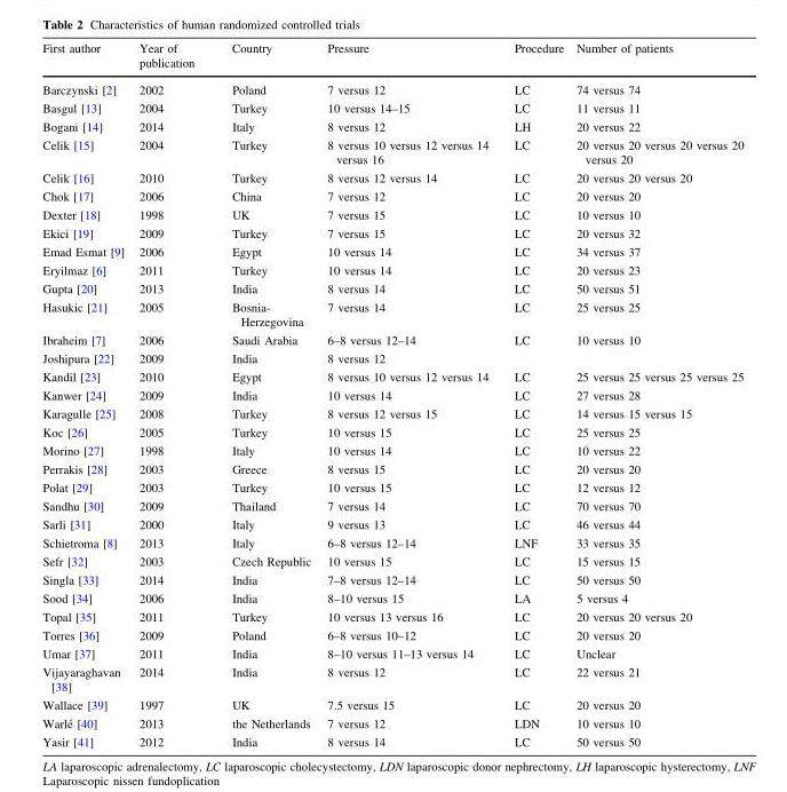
<table><thead><tr><td>First author</td><td>Year of publication</td><td>Country</td><td>Pressure</td><td>Procedure</td><td>Number of patients</td></tr></thead><tbody><tr><td>Barczynski [2]</td><td>2002</td><td>Poland</td><td>7 versus 12</td><td>LC</td><td>74 versus 74</td></tr><tr><td>Basgul [13]</td><td>2004</td><td>Turkey</td><td>10 versus 14–15</td><td>LC</td><td>11 versus 11</td></tr><tr><td>Bogani [14]</td><td>2014</td><td>Italy</td><td>8 versus 12</td><td>LH</td><td>20 versus 22</td></tr><tr><td>Celik [15]</td><td>2004</td><td>Turkey</td><td>8 versus 10 versus 12 versus 14 versus 16</td><td>LC</td><td>20 versus 20 versus 20 versus 20 versus 20</td></tr><tr><td>Celik [16]</td><td>2010</td><td>Turkey</td><td>8 versus 12 versus 14</td><td>LC</td><td>20 versus 20 versus 20</td></tr><tr><td>Chok [17]</td><td>2006</td><td>China</td><td>7 versus 12</td><td>LC</td><td>20 versus 20</td></tr><tr><td>Dexter [18]</td><td>1998</td><td>UK</td><td>7 versus 15</td><td>LC</td><td>10 versus 10</td></tr><tr><td>Ekici [19]</td><td>2009</td><td>Turkey</td><td>7 versus 15</td><td>LC</td><td>20 versus 32</td></tr><tr><td>Emad Esmat [9]</td><td>2006</td><td>Egypt</td><td>10 versus 14</td><td>LC</td><td>34 versus 37</td></tr><tr><td>Eryilmaz [6]</td><td>2011</td><td>Turkey</td><td>10 versus 14</td><td>LC</td><td>20 versus 23</td></tr><tr><td>Gupta [20]</td><td>2013</td><td>India</td><td>8 versus 14</td><td>LC</td><td>50 versus 51</td></tr><tr><td>Hasukic [21]</td><td>2005</td><td>Bosnia- Herzegovina</td><td>7 versus 14</td><td>LC</td><td>25 versus 25</td></tr><tr><td>Ibraheim [7]</td><td>2006</td><td>Saudi Arabia</td><td>6–8 versus 12–14</td><td>LC</td><td>10 versus 10</td></tr><tr><td>Joshipura [22]</td><td>2009</td><td>India</td><td>8 versus 12</td><td></td><td></td></tr><tr><td>Kandil [23]</td><td>2010</td><td>Egypt</td><td>8 versus 10 versus 12 versus 14</td><td>LC</td><td>25 versus 25 versus 25 versus 25</td></tr><tr><td>Kanwer [24]</td><td>2009</td><td>India</td><td>10 versus 14</td><td>LC</td><td>27 versus 28</td></tr><tr><td>Karagulle [25]</td><td>2008</td><td>Turkey</td><td>8 versus 12 versus 15</td><td>LC</td><td>14 versus 15 versus 15</td></tr><tr><td>Koc [26]</td><td>2005</td><td>Turkey</td><td>10 versus 15</td><td>LC</td><td>25 versus 25</td></tr><tr><td>Morino [27]</td><td>1998</td><td>Italy</td><td>10 versus 14</td><td>LC</td><td>10 versus 22</td></tr><tr><td>Perrakis [28]</td><td>2003</td><td>Greece</td><td>8 versus 15</td><td>LC</td><td>20 versus 20</td></tr><tr><td>Polat [29]</td><td>2003</td><td>Turkey</td><td>10 versus 15</td><td>LC</td><td>12 versus 12</td></tr><tr><td>Sandhu [30]</td><td>2009</td><td>Thailand</td><td>7 versus 14</td><td>LC</td><td>70 versus 70</td></tr><tr><td>Sarli [31]</td><td>2000</td><td>Italy</td><td>9 versus 13</td><td>LC</td><td>46 versus 44</td></tr><tr><td>Schietroma [8]</td><td>2013</td><td>Italy</td><td>6–8 versus 12–14</td><td>LNF</td><td>33 versus 35</td></tr><tr><td>Sefr [32]</td><td>2003</td><td>Czech Republic</td><td>10 versus 15</td><td>LC</td><td>15 versus 15</td></tr><tr><td>Singla [33]</td><td>2014</td><td>India</td><td>7–8 versus 12–14</td><td>LC</td><td>50 versus 50</td></tr><tr><td>Sood [34]</td><td>2006</td><td>India</td><td>8–10 versus 15</td><td>LA</td><td>5 versus 4</td></tr><tr><td>Topal [35]</td><td>2011</td><td>Turkey</td><td>10 versus 13 versus 16</td><td>LC</td><td>20 versus 20 versus 20</td></tr><tr><td>Torres [36]</td><td>2009</td><td>Poland</td><td>6–8 versus 10–12</td><td>LC</td><td>20 versus 20</td></tr><tr><td>Umar [37]</td><td>2011</td><td>India</td><td>8–10 versus 11–13 versus 14</td><td>LC</td><td>Unclear</td></tr><tr><td>Vijayaraghavan [38]</td><td>2014</td><td>India</td><td>8 versus 12</td><td>LC</td><td>22 versus 21</td></tr><tr><td>Wallace [39]</td><td>1997</td><td>UK</td><td>7.5 versus 15</td><td>LC</td><td>20 versus 20</td></tr><tr><td>Warle´ [40]</td><td>2013</td><td>the Netherlands</td><td>7 versus 12</td><td>LDN</td><td>10 versus 10</td></tr><tr><td>Yasir [41]</td><td>2012</td><td>India</td><td>8 versus 14</td><td>LC</td><td>50 versus 50</td></tr></tbody></table>